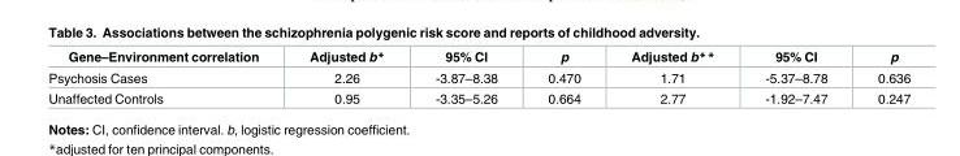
<table><thead><tr><td>Gene–Environment correlation</td><td>Adjusted b*</td><td>95% CI</td><td>p</td><td>Adjusted b**</td><td>95% CI</td><td>p</td></tr></thead><tbody><tr><td>Psychosis Cases</td><td>2.26</td><td>-3.87–8.38</td><td>0.470</td><td>1.71</td><td>-5.37–8.78</td><td>0.636</td></tr><tr><td>Unaffected Controls</td><td>0.95</td><td>-3.35–5.26</td><td>0.664</td><td>2.77</td><td>-1.92–7.47</td><td>0.247</td></tr></tbody></table>